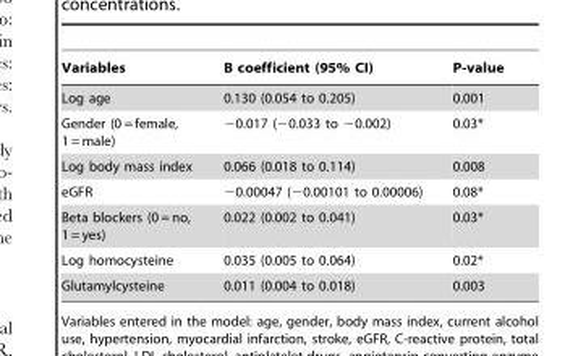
<table><thead><tr><td>Variables</td><td>B coefficient (95% CI)</td><td>P-value</td></tr></thead><tbody><tr><td>Log age</td><td>0.130 (0.054 to 0.205)</td><td>0.001</td></tr><tr><td>Gender (0 = female, 1 = male)</td><td>−0.017 (−0.033 to −0.002)</td><td>0.03*</td></tr><tr><td>Log body mass index</td><td>0.066 (0.018 to 0.114)</td><td>0.008</td></tr><tr><td>eGFR</td><td>−0.00047 (−0.00101 to 0.00006)</td><td>0.08*</td></tr><tr><td>Beta blockers (0 = no, 1 = yes)</td><td>0.022 (0.002 to 0.041)</td><td>0.03*</td></tr><tr><td>Log homocysteine</td><td>0.035 (0.005 to 0.064)</td><td>0.02*</td></tr><tr><td>Glutamylcysteine</td><td>0.011 (0.004 to 0.018)</td><td>0.003</td></tr></tbody></table>